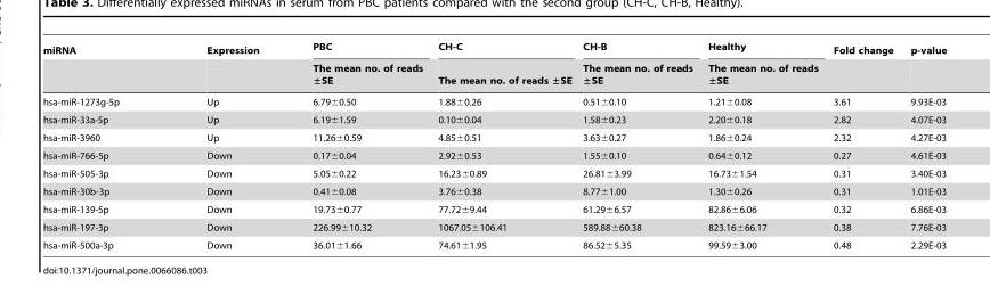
<table><thead><tr><td rowspan="2">miRNA</td><td rowspan="2">Expression</td><td rowspan="2">PBC The mean no. of reads ±SE</td><td rowspan="2">CH-C The mean no. of reads ±SE</td><td rowspan="2">CH-B The mean no. of reads ±SE</td><td rowspan="2">Healthy The mean no. of reads ±SE</td><td rowspan="2">Fold change</td><td rowspan="2">p-value</td></tr><tr></tr></thead><tbody><tr><td>hsa-miR-1273g-5p</td><td>Up</td><td>6.79±0.50</td><td>1.88±0.26</td><td>0.51±0.10</td><td>1.21±0.08</td><td>3.61</td><td>9.93E-03</td></tr><tr><td>hsa-miR-33a-5p</td><td>Up</td><td>6.19±1.59</td><td>0.10±0.04</td><td>1.58±0.23</td><td>2.20±0.18</td><td>2.82</td><td>4.07E-03</td></tr><tr><td>hsa-miR-3960</td><td>Up</td><td>11.26±0.59</td><td>4.85±0.51</td><td>3.63±0.27</td><td>1.86±0.24</td><td>2.32</td><td>4.27E-03</td></tr><tr><td>hsa-miR-766-5p</td><td>Down</td><td>0.17±0.04</td><td>2.92±0.53</td><td>1.55±0.10</td><td>0.64±0.12</td><td>0.27</td><td>4.61E-03</td></tr><tr><td>hsa-miR-505-3p</td><td>Down</td><td>5.05±0.22</td><td>16.23±0.89</td><td>26.81±3.99</td><td>16.73±1.54</td><td>0.31</td><td>3.40E-03</td></tr><tr><td>hsa-miR-30b-3p</td><td>Down</td><td>0.41±0.08</td><td>3.76±0.38</td><td>8.77±1.00</td><td>1.30±0.26</td><td>0.31</td><td>1.01E-03</td></tr><tr><td>hsa-miR-139-5p</td><td>Down</td><td>19.73±0.77</td><td>77.72±9.44</td><td>61.29±6.57</td><td>82.86±6.06</td><td>0.32</td><td>6.86E-03</td></tr><tr><td>hsa-miR-197-3p</td><td>Down</td><td>226.99±10.32</td><td>1067.05±106.41</td><td>589.88±60.38</td><td>823.16±66.17</td><td>0.38</td><td>7.76E-03</td></tr><tr><td>hsa-miR-500a-3p</td><td>Down</td><td>36.01±1.66</td><td>74.61±1.95</td><td>86.52±5.35</td><td>99.59±3.00</td><td>0.48</td><td>2.29E-03</td></tr></tbody></table>